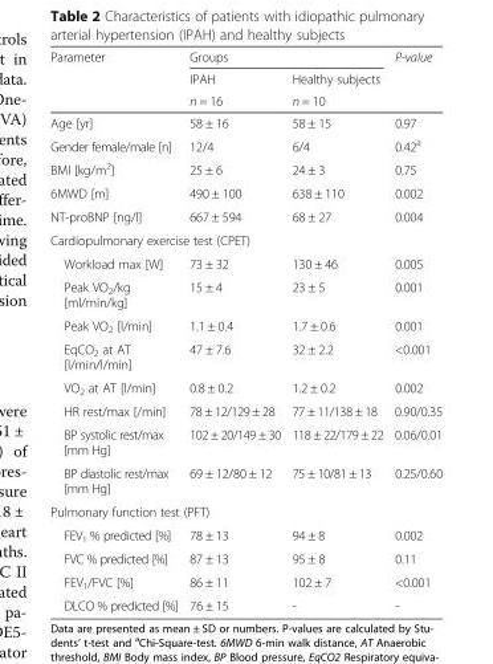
<table><thead><tr><td rowspan="3">Parameter</td><td colspan="2">Groups</td><td rowspan="3">P-value</td></tr><tr><td rowspan="2">IPAH n = 16</td><td rowspan="2">Healthy subjects n = 10</td></tr><tr></tr></thead><tbody><tr><td>Age [yr]</td><td>58 ± 16</td><td>58 ± 15</td><td>0.97</td></tr><tr><td>Gender female/male [n]</td><td>12/4</td><td>6/4</td><td>0.42<sup>a</sup></td></tr><tr><td>BMI [kg/m<sup>2</sup>]</td><td>25 ± 6</td><td>24 ± 3</td><td>0.75</td></tr><tr><td>6MWD [m]</td><td>490 ± 100</td><td>638 ± 110</td><td>0.002</td></tr><tr><td>NT-proBNP [ng/l]</td><td>667 ± 594</td><td>68 ± 27</td><td>0.004</td></tr><tr><td colspan="4">Cardiopulmonary exercise test (CPET)</td></tr><tr><td>Workload max [W]</td><td>73 ± 32</td><td>130 ± 46</td><td>0.005</td></tr><tr><td>Peak VO<sub>2</sub>/kg [ml/min/kg]</td><td>15 ± 4</td><td>23 ± 5</td><td>0.001</td></tr><tr><td>Peak VO<sub>2</sub> [l/min]</td><td>1.1 ± 0.4</td><td>1.7 ± 0.6</td><td>0.001</td></tr><tr><td>EqCO<sub>2</sub> at AT [l/min/l/min]</td><td>47 ± 7.6</td><td>32 ± 2.2</td><td>&lt;0.001</td></tr><tr><td>VO<sub>2</sub> at AT [l/min]</td><td>0.8 ± 0.2</td><td>1.2 ± 0.2</td><td>0.002</td></tr><tr><td>HR rest/max [/min]</td><td>78 ± 12/129 ± 28</td><td>77 ± 11/138 ± 18</td><td>0.90/0.35</td></tr><tr><td>BP systolic rest/max [mm Hg]</td><td>102 ± 20/149 ± 30</td><td>118 ± 22/179 ± 22</td><td>0.06/0.01</td></tr><tr><td>BP diastolic rest/max [mm Hg]</td><td>69 ± 12/80 ± 12</td><td>75 ± 10/81 ± 13</td><td>0.25/0.60</td></tr><tr><td colspan="4">Pulmonary function test (PFT)</td></tr><tr><td>FEV<sub>1</sub> % predicted [%]</td><td>78 ± 13</td><td>94 ± 8</td><td>0.002</td></tr><tr><td>FVC % predicted [%]</td><td>87 ± 13</td><td>95 ± 8</td><td>0.11</td></tr><tr><td>FEV<sub>1</sub>/FVC [%]</td><td>86 ± 11</td><td>102 ± 7</td><td>&lt;0.001</td></tr><tr><td>DLCO % predicted [%]</td><td>76 ± 15</td><td>-</td><td>-</td></tr></tbody></table>